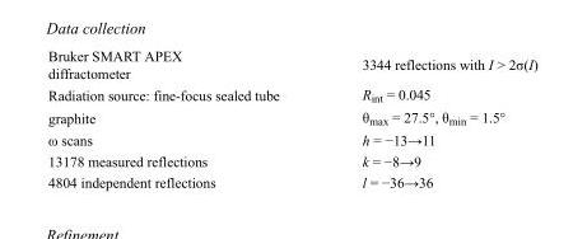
<table><tbody><tr><td>Bruker SMART APEX diffractometer</td><td>3344 reflections with I &gt; 2σ(I)</td></tr><tr><td>Radiation source: fine-focus sealed tube</td><td>R<sub>int</sub> = 0.045</td></tr><tr><td>graphite</td><td>θ<sub>max</sub> = 27.5°, θ<sub>min</sub> = 1.5°</td></tr><tr><td>ω scans</td><td>h = −13→11</td></tr><tr><td>13178 measured reflections</td><td>k = −8→9</td></tr><tr><td>4804 independent reflections</td><td>l = −36→36</td></tr></tbody></table>